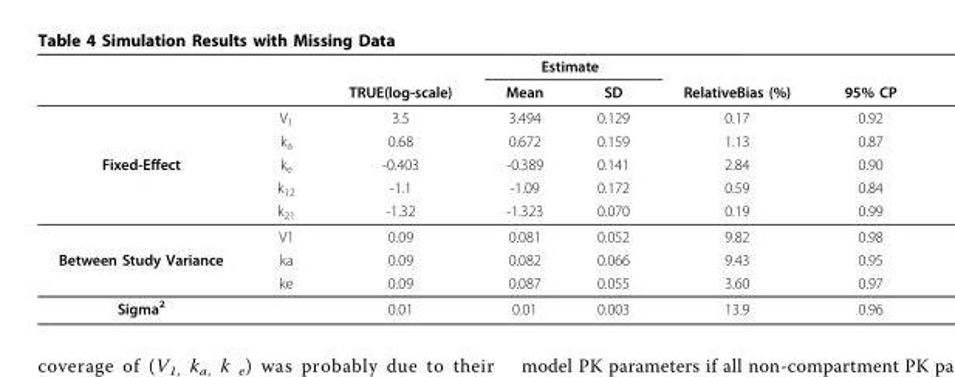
<table><thead><tr><td rowspan="2"></td><td rowspan="2"></td><td colspan="4">Estimate</td><td rowspan="2">95% CP</td></tr><tr><td>TRUE(log-scale)</td><td>Mean</td><td>SD</td><td>RelativeBias (%)</td></tr></thead><tbody><tr><td></td><td>V1</td><td>3.5</td><td>3.494</td><td>0.129</td><td>0.17</td><td>0.92</td></tr><tr><td></td><td>k<sub>a</sub></td><td>0.68</td><td>0.672</td><td>0.159</td><td>1.13</td><td>0.87</td></tr><tr><td rowspan="4">Fixed-Effect</td><td>k<sub>e</sub></td><td>-0.403</td><td>-0.389</td><td>0.141</td><td>2.84</td><td>0.90</td></tr><tr><td>k<sub>12</sub></td><td>-1.1</td><td>-1.09</td><td>0.172</td><td>0.59</td><td>0.84</td></tr><tr><td>k<sub>21</sub></td><td>-1.32</td><td>-1.323</td><td>0.070</td><td>0.19</td><td>0.99</td></tr><tr><td>V1</td><td>0.09</td><td>0.081</td><td>0.052</td><td>9.82</td><td>0.98</td></tr><tr><td rowspan="2">Between Study Variance</td><td>ka</td><td>0.09</td><td>0.082</td><td>0.066</td><td>9.43</td><td>0.95</td></tr><tr><td>ke</td><td>0.09</td><td>0.087</td><td>0.055</td><td>3.60</td><td>0.97</td></tr><tr><td>Sigma<sup>2</sup></td><td></td><td>0.01</td><td>0.01</td><td>0.003</td><td>13.9</td><td>0.96</td></tr></tbody></table>